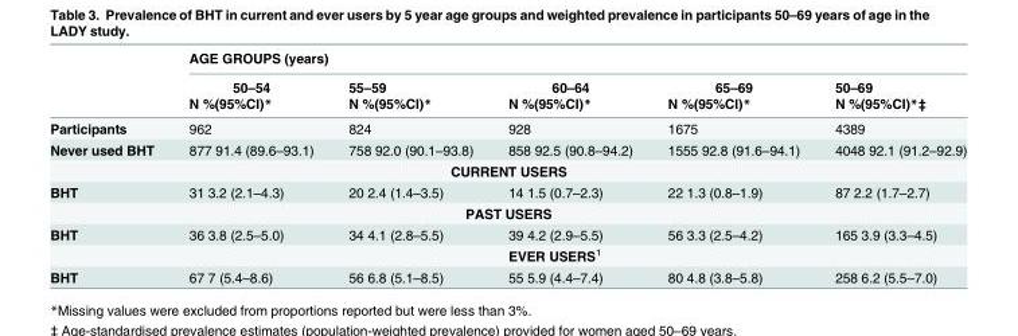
<table><thead><tr><td rowspan="3"></td><td colspan="5">AGE GROUPS (years)</td></tr><tr><td rowspan="2">50–54 N %(95%CI)*</td><td rowspan="2">55–59 N %(95%CI)*</td><td rowspan="2">60–64 N %(95%CI)*</td><td rowspan="2">65–69 N %(95%CI)*</td><td rowspan="2">50–69 N %(95%CI)*‡</td></tr><tr></tr></thead><tbody><tr><td>Participants</td><td>962</td><td>824</td><td>928</td><td>1675</td><td>4389</td></tr><tr><td>Never used BHT</td><td>877 91.4 (89.6–93.1)</td><td>758 92.0 (90.1–93.8)</td><td>858 92.5 (90.8–94.2)</td><td>1555 92.8 (91.6–94.1)</td><td>4048 92.1 (91.2–92.9)</td></tr><tr><td colspan="6">CURRENT USERS</td></tr><tr><td>BHT</td><td>31 3.2 (2.1–4.3)</td><td>20 2.4 (1.4–3.5)</td><td>14 1.5 (0.7–2.3)</td><td>22 1.3 (0.8–1.9)</td><td>87 2.2 (1.7–2.7)</td></tr><tr><td colspan="6">PAST USERS</td></tr><tr><td rowspan="2">BHT</td><td>36 3.8 (2.5–5.0)</td><td>34 4.1 (2.8–5.5)</td><td>39 4.2 (2.9–5.5)</td><td>56 3.3 (2.5–4.2)</td><td>165 3.9 (3.3–4.5)</td></tr><tr><td></td><td></td><td>EVER USERS<sup>1</sup></td><td></td><td></td></tr><tr><td>BHT</td><td>67 7 (5.4–8.6)</td><td>56 6.8 (5.1–8.5)</td><td>55 5.9 (4.4–7.4)</td><td>80 4.8 (3.8–5.8)</td><td>258 6.2 (5.5–7.0)</td></tr></tbody></table>